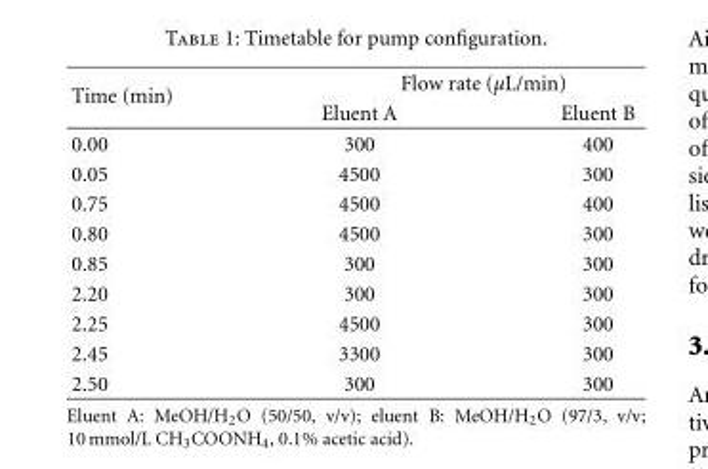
<table><thead><tr><td rowspan="2">Time (min)</td><td colspan="2">Flow rate (µL/min)</td></tr><tr><td>Eluent A</td><td>Eluent B</td></tr></thead><tbody><tr><td>0.00</td><td>300</td><td>400</td></tr><tr><td>0.05</td><td>4500</td><td>300</td></tr><tr><td>0.75</td><td>4500</td><td>400</td></tr><tr><td>0.80</td><td>4500</td><td>300</td></tr><tr><td>0.85</td><td>300</td><td>300</td></tr><tr><td>2.20</td><td>300</td><td>300</td></tr><tr><td>2.25</td><td>4500</td><td>300</td></tr><tr><td>2.45</td><td>3300</td><td>300</td></tr><tr><td>2.50</td><td>300</td><td>300</td></tr></tbody></table>